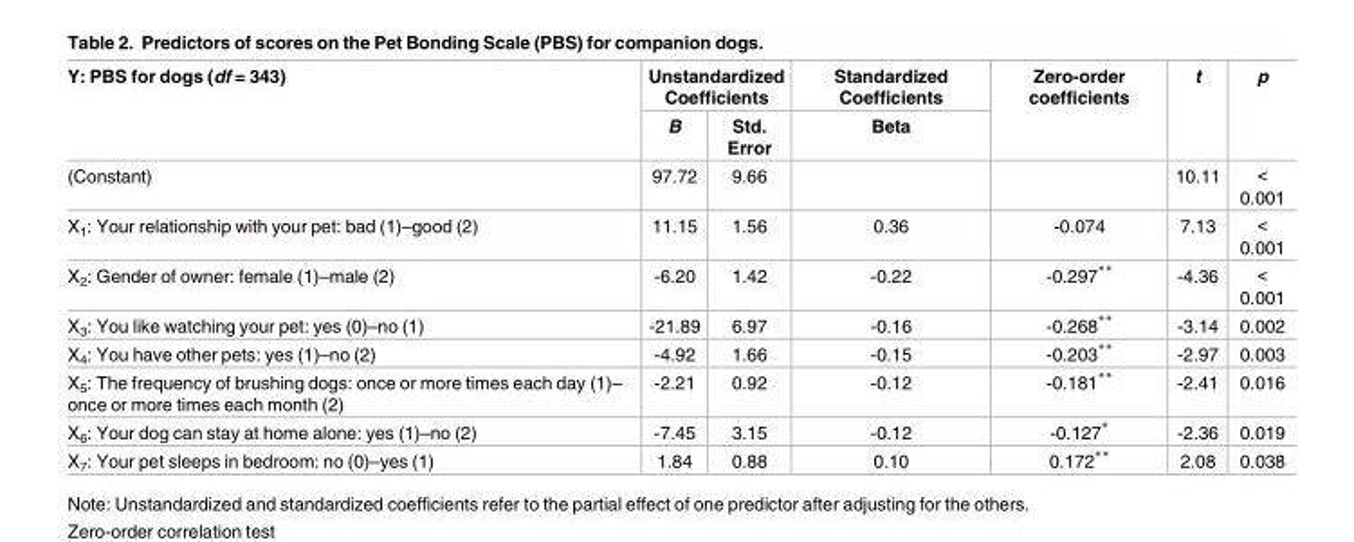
<table><thead><tr><td rowspan="2">Y: PBS for dogs (df = 343)</td><td colspan="2">Unstandardized Coefficients</td><td rowspan="2">Standardized Coefficients Beta</td><td rowspan="2">Zero-order coefficients</td><td rowspan="2">t</td><td rowspan="2">p</td></tr><tr><td>B</td><td>Std. Error</td></tr></thead><tbody><tr><td>(Constant)</td><td>97.72</td><td>9.66</td><td></td><td></td><td>10.11</td><td>&lt; 0.001</td></tr><tr><td>X<sub>1</sub>: Your relationship with your pet: bad (1)–good (2)</td><td>11.15</td><td>1.56</td><td>0.36</td><td>-0.074</td><td>7.13</td><td>&lt; 0.001</td></tr><tr><td>X<sub>2</sub>: Gender of owner: female (1)–male (2)</td><td>-6.20</td><td>1.42</td><td>-0.22</td><td>-0.297**</td><td>-4.36</td><td>&lt; 0.001</td></tr><tr><td>X<sub>3</sub>: You like watching your pet: yes (0)–no (1)</td><td>-21.89</td><td>6.97</td><td>-0.16</td><td>-0.268**</td><td>-3.14</td><td>0.002</td></tr><tr><td>X<sub>4</sub>: You have other pets: yes (1)–no (2)</td><td>-4.92</td><td>1.66</td><td>-0.15</td><td>-0.203**</td><td>-2.97</td><td>0.003</td></tr><tr><td>X<sub>5</sub>: The frequency of brushing dogs: once or more times each day (1)– once or more times each month (2)</td><td>-2.21</td><td>0.92</td><td>-0.12</td><td>-0.181**</td><td>-2.41</td><td>0.016</td></tr><tr><td>X<sub>6</sub>: Your dog can stay at home alone: yes (1)–no (2)</td><td>-7.45</td><td>3.15</td><td>-0.12</td><td>-0.127*</td><td>-2.36</td><td>0.019</td></tr><tr><td>X<sub>7</sub>: Your pet sleeps in bedroom: no (0)–yes (1)</td><td>1.84</td><td>0.88</td><td>0.10</td><td>0.172**</td><td>2.08</td><td>0.038</td></tr></tbody></table>